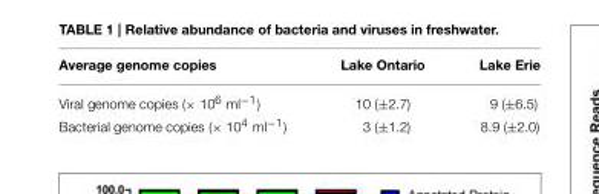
<table><thead><tr><td>Average genome copies</td><td>Lake Ontario</td><td>Lake Erie</td></tr></thead><tbody><tr><td>Viral genome copies (× 10<sup>6</sup> ml<sup>−1</sup>)</td><td>10 (±2.7)</td><td>9 (±6.5)</td></tr><tr><td>Bacterial genome copies (× 10<sup>4</sup> ml<sup>−1</sup>)</td><td>3 (±1.2)</td><td>8.9 (±2.0)</td></tr></tbody></table>